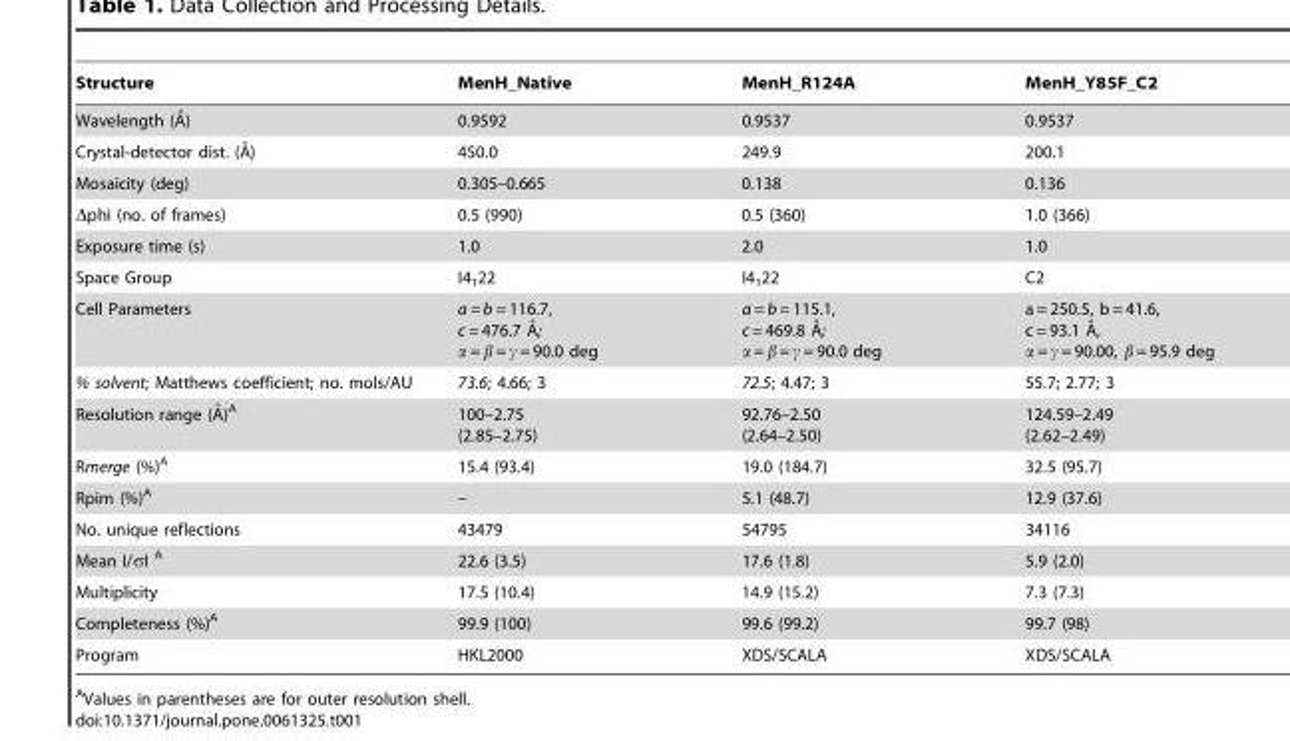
<table><thead><tr><td>Structure</td><td>MenH_Native</td><td>MenH_R124A</td><td>MenH_Y85F_C2</td></tr></thead><tbody><tr><td>Wavelength (A˚)</td><td>0.9592</td><td>0.9537</td><td>0.9537</td></tr><tr><td>Crystal-detector dist. (A˚)</td><td>450.0</td><td>249.9</td><td>200.1</td></tr><tr><td>Mosaicity (deg)</td><td>0.305–0.665</td><td>0.138</td><td>0.136</td></tr><tr><td>Δphi (no. of frames)</td><td>0.5 (990)</td><td>0.5 (360)</td><td>1.0 (366)</td></tr><tr><td>Exposure time (s)</td><td>1.0</td><td>2.0</td><td>1.0</td></tr><tr><td>Space Group</td><td>I4<sub>1</sub>22</td><td>I4<sub>1</sub>22</td><td>C2</td></tr><tr><td>Cell Parameters</td><td>a = b = 116.7, c = 476.7 A˚; a = b = c = 90.0 deg</td><td>a = b = 115.1, c = 469.8 A˚; a = b = c = 90.0 deg</td><td>a = 250.5, b = 41.6, c = 93.1 A˚, a = c = 90.00, b = 95.9 deg</td></tr><tr><td>% solvent; Matthews coefficient; no. mols/AU</td><td>73.6; 4.66; 3</td><td>72.5; 4.47; 3</td><td>55.7; 2.77; 3</td></tr><tr><td>Resolution range (A˚)A</td><td>100–2.75 (2.85–2.75)</td><td>92.76–2.50 (2.64–2.50)</td><td>124.59–2.49 (2.62–2.49)</td></tr><tr><td>Rmerge (%)<sup>A</sup></td><td>15.4 (93.4)</td><td>19.0 (184.7)</td><td>32.5 (95.7)</td></tr><tr><td>Rpim (%)<sup>A</sup></td><td>–</td><td>5.1 (48.7)</td><td>12.9 (37.6)</td></tr><tr><td>No. unique reflections</td><td>43479</td><td>54795</td><td>34116</td></tr><tr><td>Mean I/σI A</td><td>22.6 (3.5)</td><td>17.6 (1.8)</td><td>5.9 (2.0)</td></tr><tr><td>Multiplicity</td><td>17.5 (10.4)</td><td>14.9 (15.2)</td><td>7.3 (7.3)</td></tr><tr><td>Completeness (%)<sup>A</sup></td><td>99.9 (100)</td><td>99.6 (99.2)</td><td>99.7 (98)</td></tr><tr><td>Program</td><td>HKL2000</td><td>XDS/SCALA</td><td>XDS/SCALA</td></tr></tbody></table>